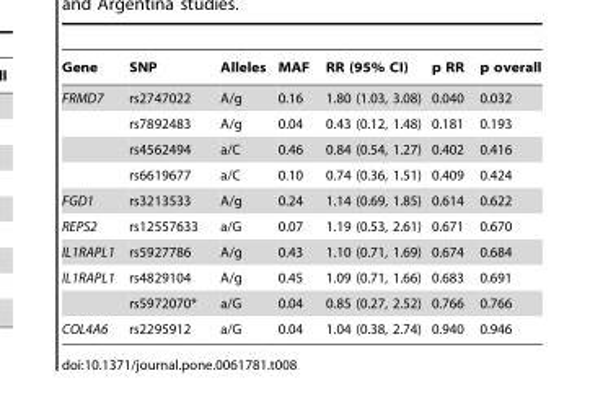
<table><thead><tr><td>Gene</td><td>SNP</td><td>Alleles</td><td>MAF</td><td>RR (95% CI)</td><td>p RR</td><td>p overall</td></tr></thead><tbody><tr><td rowspan="4">FRMD7</td><td>rs2747022</td><td>A/g</td><td>0.16</td><td>1.80 (1.03, 3.08)</td><td>0.040</td><td>0.032</td></tr><tr><td>rs7892483</td><td>A/g</td><td>0.04</td><td>0.43 (0.12, 1.48)</td><td>0.181</td><td>0.193</td></tr><tr><td>rs4562494</td><td>a/C</td><td>0.46</td><td>0.84 (0.54, 1.27)</td><td>0.402</td><td>0.416</td></tr><tr><td>rs6619677</td><td>a/C</td><td>0.10</td><td>0.74 (0.36, 1.51)</td><td>0.409</td><td>0.424</td></tr><tr><td>FGD1</td><td>rs3213533</td><td>A/g</td><td>0.24</td><td>1.14 (0.69, 1.85)</td><td>0.614</td><td>0.622</td></tr><tr><td>REPS2</td><td>rs12557633</td><td>a/G</td><td>0.07</td><td>1.19 (0.53, 2.61)</td><td>0.671</td><td>0.670</td></tr><tr><td>IL1RAPL1</td><td>rs5927786</td><td>A/g</td><td>0.43</td><td>1.10 (0.71, 1.69)</td><td>0.674</td><td>0.684</td></tr><tr><td rowspan="2">IL1RAPL1</td><td>rs4829104</td><td>A/g</td><td>0.45</td><td>1.09 (0.71, 1.66)</td><td>0.683</td><td>0.691</td></tr><tr><td>rs5972070*</td><td>a/G</td><td>0.04</td><td>0.85 (0.27, 2.52)</td><td>0.766</td><td>0.766</td></tr><tr><td>COL4A6</td><td>rs2295912</td><td>a/G</td><td>0.04</td><td>1.04 (0.38, 2.74)</td><td>0.940</td><td>0.946</td></tr></tbody></table>